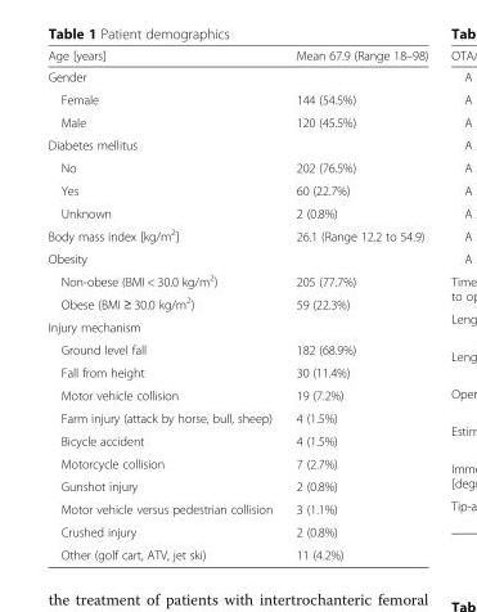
<table><thead><tr><td>Age [years]</td><td>Mean 67.9 (Range 18–98)</td></tr></thead><tbody><tr><td colspan="2">Gender</td></tr><tr><td>Female</td><td>144 (54.5%)</td></tr><tr><td>Male</td><td>120 (45.5%)</td></tr><tr><td colspan="2">Diabetes mellitus</td></tr><tr><td>No</td><td>202 (76.5%)</td></tr><tr><td>Yes</td><td>60 (22.7%)</td></tr><tr><td>Unknown</td><td>2 (0.8%)</td></tr><tr><td>Body mass index [kg/m<sup>2</sup>]</td><td>26.1 (Range 12.2 to 54.9)</td></tr><tr><td colspan="2">Obesity</td></tr><tr><td>Non-obese (BMI &lt; 30.0 kg/m<sup>2</sup>)</td><td>205 (77.7%)</td></tr><tr><td>Obese (BMI ≥ 30.0 kg/m<sup>2</sup>)</td><td>59 (22.3%)</td></tr><tr><td colspan="2">Injury mechanism</td></tr><tr><td>Ground level fall</td><td>182 (68.9%)</td></tr><tr><td>Fall from height</td><td>30 (11.4%)</td></tr><tr><td>Motor vehicle collision</td><td>19 (7.2%)</td></tr><tr><td>Farm injury (attack by horse, bull, sheep)</td><td>4 (1.5%)</td></tr><tr><td>Bicycle accident</td><td>4 (1.5%)</td></tr><tr><td>Motorcycle collision</td><td>7 (2.7%)</td></tr><tr><td>Gunshot injury</td><td>2 (0.8%)</td></tr><tr><td>Motor vehicle versus pedestrian collision</td><td>3 (1.1%)</td></tr><tr><td>Crushed injury</td><td>2 (0.8%)</td></tr><tr><td>Other (golf cart, ATV, jet ski)</td><td>11 (4.2%)</td></tr></tbody></table>